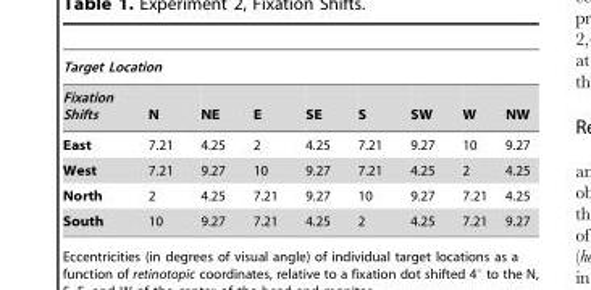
<table><thead><tr><td colspan="9">Target Location</td></tr><tr><td>Fixation Shifts</td><td>N</td><td>NE</td><td>E</td><td>SE</td><td>S</td><td>SW</td><td>W</td><td>NW</td></tr></thead><tbody><tr><td>East</td><td>7.21</td><td>4.25</td><td>2</td><td>4.25</td><td>7.21</td><td>9.27</td><td>10</td><td>9.27</td></tr><tr><td>West</td><td>7.21</td><td>9.27</td><td>10</td><td>9.27</td><td>7.21</td><td>4.25</td><td>2</td><td>4.25</td></tr><tr><td>North</td><td>2</td><td>4.25</td><td>7.21</td><td>9.27</td><td>10</td><td>9.27</td><td>7.21</td><td>4.25</td></tr><tr><td>South</td><td>10</td><td>9.27</td><td>7.21</td><td>4.25</td><td>2</td><td>4.25</td><td>7.21</td><td>9.27</td></tr></tbody></table>